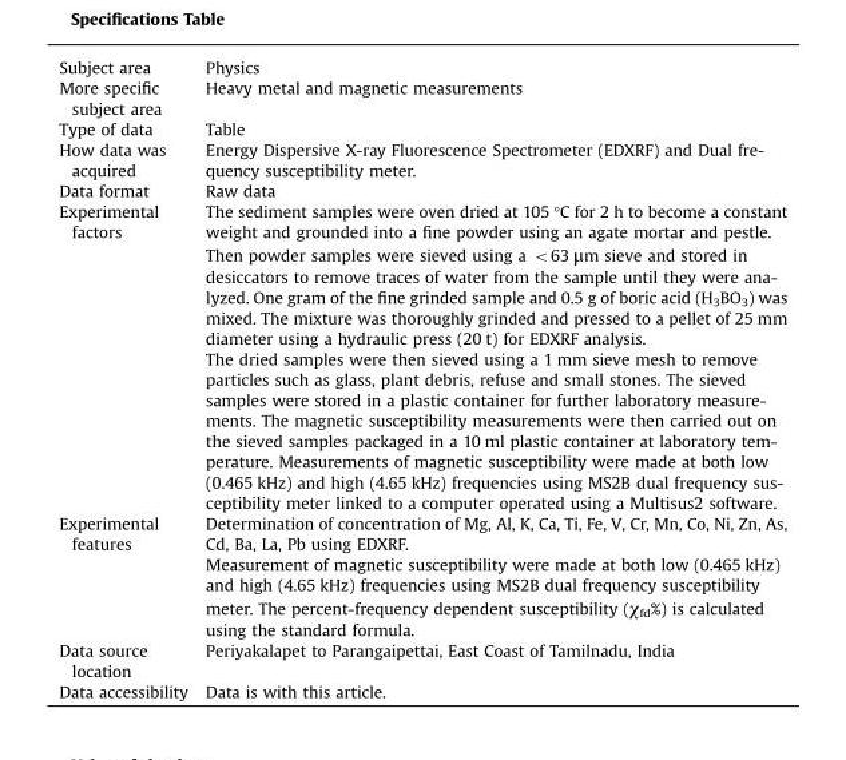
<table><thead><tr><td>Subject area</td><td>Physics</td></tr></thead><tbody><tr><td>More specific subject area</td><td>Heavy metal and magnetic measurements</td></tr><tr><td>Type of data</td><td>Table</td></tr><tr><td>How data was acquired</td><td>Energy Dispersive X-ray Fluorescence Spectrometer (EDXRF) and Dual fre- quency susceptibility meter.</td></tr><tr><td>Data format</td><td>Raw data</td></tr><tr><td rowspan="2">Experimental factors</td><td>The sediment samples were oven dried at 105 °C for 2 h to become a constant weight and grounded into a fine powder using an agate mortar and pestle. Then powder samples were sieved using a o63 μm sieve and stored in desiccators to remove traces of water from the sample until they were ana- lyzed. One gram of the fine grinded sample and 0.5 g of boric acid (H3BO3) was mixed. The mixture was thoroughly grinded and pressed to a pellet of 25 mm diameter using a hydraulic press (20 t) for EDXRF analysis.</td></tr><tr><td>The dried samples were then sieved using a 1 mm sieve mesh to remove particles such as glass, plant debris, refuse and small stones. The sieved samples were stored in a plastic container for further laboratory measure- ments. The magnetic susceptibility measurements were then carried out on the sieved samples packaged in a 10 ml plastic container at laboratory tem- perature. Measurements of magnetic susceptibility were made at both low (0.465 kHz) and high (4.65 kHz) frequencies using MS2B dual frequency sus- ceptibility meter linked to a computer operated using a Multisus2 software.</td></tr><tr><td rowspan="2">Experimental features</td><td>Determination of concentration of Mg, Al, K, Ca, Ti, Fe, V, Cr, Mn, Co, Ni, Zn, As, Cd, Ba, La, Pb using EDXRF.</td></tr><tr><td>Measurement of magnetic susceptibility were made at both low (0.465 kHz) and high (4.65 kHz) frequencies using MS2B dual frequency susceptibility meter. The percent-frequency dependent susceptibility (χ<sub>fd</sub>%) is calculated using the standard formula.</td></tr><tr><td>Data source location</td><td>Periyakalapet to Parangaipettai, East Coast of Tamilnadu, India</td></tr><tr><td>Data accessibility</td><td>Data is with this article.</td></tr></tbody></table>